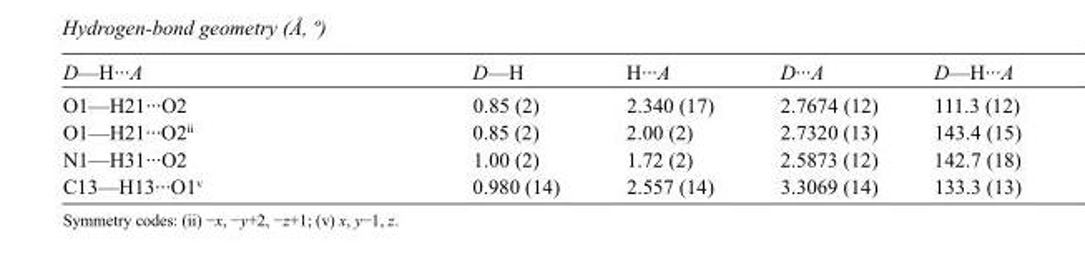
<table><tbody><tr><td>D—H···A</td><td>D—H</td><td>H···A</td><td>D···A</td><td>D—H···A</td></tr><tr><td>O1—H21···O2</td><td>0.85 (2)</td><td>2.340 (17)</td><td>2.7674 (12)</td><td>111.3 (12)</td></tr><tr><td>O1—H21···O2<sup>ii</sup></td><td>0.85 (2)</td><td>2.00 (2)</td><td>2.7320 (13)</td><td>143.4 (15)</td></tr><tr><td>N1—H31···O2</td><td>1.00 (2)</td><td>1.72 (2)</td><td>2.5873 (12)</td><td>142.7 (18)</td></tr><tr><td>C13—H13···O1<sup>v</sup></td><td>0.980 (14)</td><td>2.557 (14)</td><td>3.3069 (14)</td><td>133.3 (13)</td></tr></tbody></table>